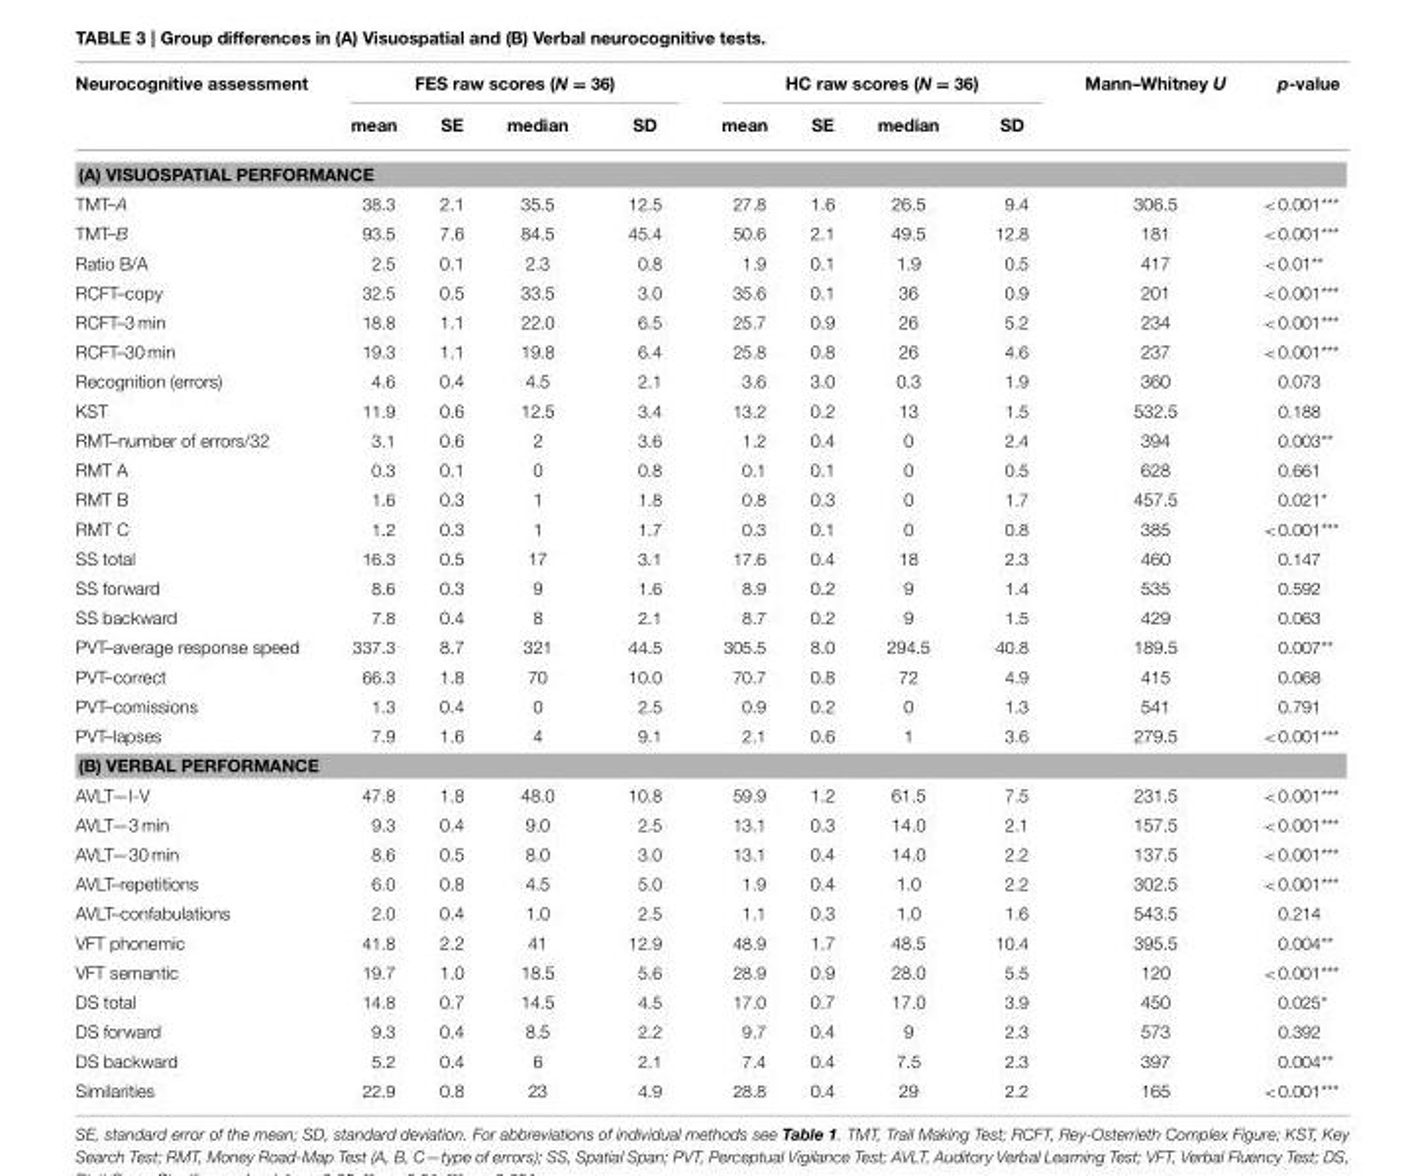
<table><thead><tr><td rowspan="2">Neurocognitive assessment</td><td colspan="4">FES raw scores (N = 36)</td><td colspan="4">HC raw scores (N = 36)</td><td rowspan="2">Mann–Whitney U</td><td rowspan="2">p-value</td></tr><tr><td>mean</td><td>SE</td><td>median</td><td>SD</td><td>mean</td><td>SE</td><td>median</td><td>SD</td></tr></thead><tbody><tr><td colspan="11">(A) VISUOSPATIAL PERFORMANCE</td></tr><tr><td>TMT–A</td><td>38.3</td><td>2.1</td><td>35.5</td><td>12.5</td><td>27.8</td><td>1.6</td><td>26.5</td><td>9.4</td><td>306.5</td><td>&lt;0.001***</td></tr><tr><td>TMT–B</td><td>93.5</td><td>7.6</td><td>84.5</td><td>45.4</td><td>50.6</td><td>2.1</td><td>49.5</td><td>12.8</td><td>181</td><td>&lt;0.001***</td></tr><tr><td>Ratio B/A</td><td>2.5</td><td>0.1</td><td>2.3</td><td>0.8</td><td>1.9</td><td>0.1</td><td>1.9</td><td>0.5</td><td>417</td><td>&lt;0.01**</td></tr><tr><td>RCFT–copy</td><td>32.5</td><td>0.5</td><td>33.5</td><td>3.0</td><td>35.6</td><td>0.1</td><td>36</td><td>0.9</td><td>201</td><td>&lt;0.001***</td></tr><tr><td>RCFT–3 min</td><td>18.8</td><td>1.1</td><td>22.0</td><td>6.5</td><td>25.7</td><td>0.9</td><td>26</td><td>5.2</td><td>234</td><td>&lt;0.001***</td></tr><tr><td>RCFT–30 min</td><td>19.3</td><td>1.1</td><td>19.8</td><td>6.4</td><td>25.8</td><td>0.8</td><td>26</td><td>4.6</td><td>237</td><td>&lt;0.001***</td></tr><tr><td>Recognition (errors)</td><td>4.6</td><td>0.4</td><td>4.5</td><td>2.1</td><td>3.6</td><td>3.0</td><td>0.3</td><td>1.9</td><td>360</td><td>0.073</td></tr><tr><td>KST</td><td>11.9</td><td>0.6</td><td>12.5</td><td>3.4</td><td>13.2</td><td>0.2</td><td>13</td><td>1.5</td><td>532.5</td><td>0.188</td></tr><tr><td>RMT–number of errors/32</td><td>3.1</td><td>0.6</td><td>2</td><td>3.6</td><td>1.2</td><td>0.4</td><td>0</td><td>2.4</td><td>394</td><td>0.003**</td></tr><tr><td>RMT A</td><td>0.3</td><td>0.1</td><td>0</td><td>0.8</td><td>0.1</td><td>0.1</td><td>0</td><td>0.5</td><td>628</td><td>0.661</td></tr><tr><td>RMT B</td><td>1.6</td><td>0.3</td><td>1</td><td>1.8</td><td>0.8</td><td>0.3</td><td>0</td><td>1.7</td><td>457.5</td><td>0.021*</td></tr><tr><td>RMT C</td><td>1.2</td><td>0.3</td><td>1</td><td>1.7</td><td>0.3</td><td>0.1</td><td>0</td><td>0.8</td><td>385</td><td>&lt;0.001***</td></tr><tr><td>SS total</td><td>16.3</td><td>0.5</td><td>17</td><td>3.1</td><td>17.6</td><td>0.4</td><td>18</td><td>2.3</td><td>460</td><td>0.147</td></tr><tr><td>SS forward</td><td>8.6</td><td>0.3</td><td>9</td><td>1.6</td><td>8.9</td><td>0.2</td><td>9</td><td>1.4</td><td>535</td><td>0.592</td></tr><tr><td>SS backward</td><td>7.8</td><td>0.4</td><td>8</td><td>2.1</td><td>8.7</td><td>0.2</td><td>9</td><td>1.5</td><td>429</td><td>0.063</td></tr><tr><td>PVT–average response speed</td><td>337.3</td><td>8.7</td><td>321</td><td>44.5</td><td>305.5</td><td>8.0</td><td>294.5</td><td>40.8</td><td>189.5</td><td>0.007**</td></tr><tr><td>PVT–correct</td><td>66.3</td><td>1.8</td><td>70</td><td>10.0</td><td>70.7</td><td>0.8</td><td>72</td><td>4.9</td><td>415</td><td>0.068</td></tr><tr><td>PVT–comissions</td><td>1.3</td><td>0.4</td><td>0</td><td>2.5</td><td>0.9</td><td>0.2</td><td>0</td><td>1.3</td><td>541</td><td>0.791</td></tr><tr><td>PVT–lapses</td><td>7.9</td><td>1.6</td><td>4</td><td>9.1</td><td>2.1</td><td>0.6</td><td>1</td><td>3.6</td><td>279.5</td><td>&lt;0.001***</td></tr><tr><td colspan="11">(B) VERBAL PERFORMANCE</td></tr><tr><td>AVLT—I-V</td><td>47.8</td><td>1.8</td><td>48.0</td><td>10.8</td><td>59.9</td><td>1.2</td><td>61.5</td><td>7.5</td><td>231.5</td><td>&lt;0.001***</td></tr><tr><td>AVLT—3 min</td><td>9.3</td><td>0.4</td><td>9.0</td><td>2.5</td><td>13.1</td><td>0.3</td><td>14.0</td><td>2.1</td><td>157.5</td><td>&lt;0.001***</td></tr><tr><td>AVLT—30 min</td><td>8.6</td><td>0.5</td><td>8.0</td><td>3.0</td><td>13.1</td><td>0.4</td><td>14.0</td><td>2.2</td><td>137.5</td><td>&lt;0.001***</td></tr><tr><td>AVLT–repetitions</td><td>6.0</td><td>0.8</td><td>4.5</td><td>5.0</td><td>1.9</td><td>0.4</td><td>1.0</td><td>2.2</td><td>302.5</td><td>&lt;0.001***</td></tr><tr><td>AVLT–confabulations</td><td>2.0</td><td>0.4</td><td>1.0</td><td>2.5</td><td>1.1</td><td>0.3</td><td>1.0</td><td>1.6</td><td>543.5</td><td>0.214</td></tr><tr><td>VFT phonemic</td><td>41.8</td><td>2.2</td><td>41</td><td>12.9</td><td>48.9</td><td>1.7</td><td>48.5</td><td>10.4</td><td>395.5</td><td>0.004**</td></tr><tr><td>VFT semantic</td><td>19.7</td><td>1.0</td><td>18.5</td><td>5.6</td><td>28.9</td><td>0.9</td><td>28.0</td><td>5.5</td><td>120</td><td>&lt;0.001***</td></tr><tr><td>DS total</td><td>14.8</td><td>0.7</td><td>14.5</td><td>4.5</td><td>17.0</td><td>0.7</td><td>17.0</td><td>3.9</td><td>450</td><td>0.025*</td></tr><tr><td>DS forward</td><td>9.3</td><td>0.4</td><td>8.5</td><td>2.2</td><td>9.7</td><td>0.4</td><td>9</td><td>2.3</td><td>573</td><td>0.392</td></tr><tr><td>DS backward</td><td>5.2</td><td>0.4</td><td>6</td><td>2.1</td><td>7.4</td><td>0.4</td><td>7.5</td><td>2.3</td><td>397</td><td>0.004**</td></tr><tr><td>Similarities</td><td>22.9</td><td>0.8</td><td>23</td><td>4.9</td><td>28.8</td><td>0.4</td><td>29</td><td>2.2</td><td>165</td><td>&lt;0.001***</td></tr></tbody></table>